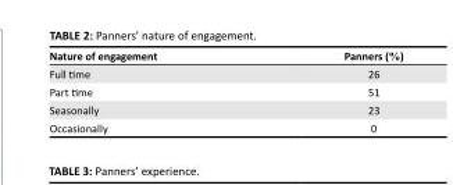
<table><thead><tr><td>Nature of engagement</td><td>Panners (%)</td></tr></thead><tbody><tr><td>Full time</td><td>26</td></tr><tr><td>Part time</td><td>51</td></tr><tr><td>Seasonally</td><td>23</td></tr><tr><td>Occasionally</td><td>0</td></tr></tbody></table>